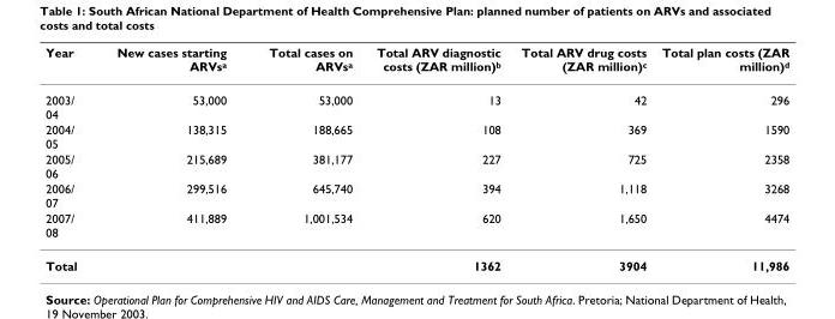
<table><thead><tr><td>Year</td><td>New cases starting ARVs<sup>a</sup></td><td>Total cases on ARVs<sup>a</sup></td><td>Total ARV diagnostic costs (ZAR million)<sup>b</sup></td><td>Total ARV drug costs (ZAR million)<sup>c</sup></td><td>Total plan costs (ZAR million)<sup>d</sup></td></tr></thead><tbody><tr><td>2003/ 04</td><td>53,000</td><td>53,000</td><td>13</td><td>42</td><td>296</td></tr><tr><td>2004/ 05</td><td>138,315</td><td>188,665</td><td>108</td><td>369</td><td>1590</td></tr><tr><td>2005/ 06</td><td>215,689</td><td>381,177</td><td>227</td><td>725</td><td>2358</td></tr><tr><td>2006/ 07</td><td>299,516</td><td>645,740</td><td>394</td><td>1,118</td><td>3268</td></tr><tr><td>2007/ 08</td><td>411,889</td><td>1,001,534</td><td>620</td><td>1,650</td><td>4474</td></tr><tr><td>Total</td><td></td><td></td><td>1362</td><td>3904</td><td>11,986</td></tr></tbody></table>